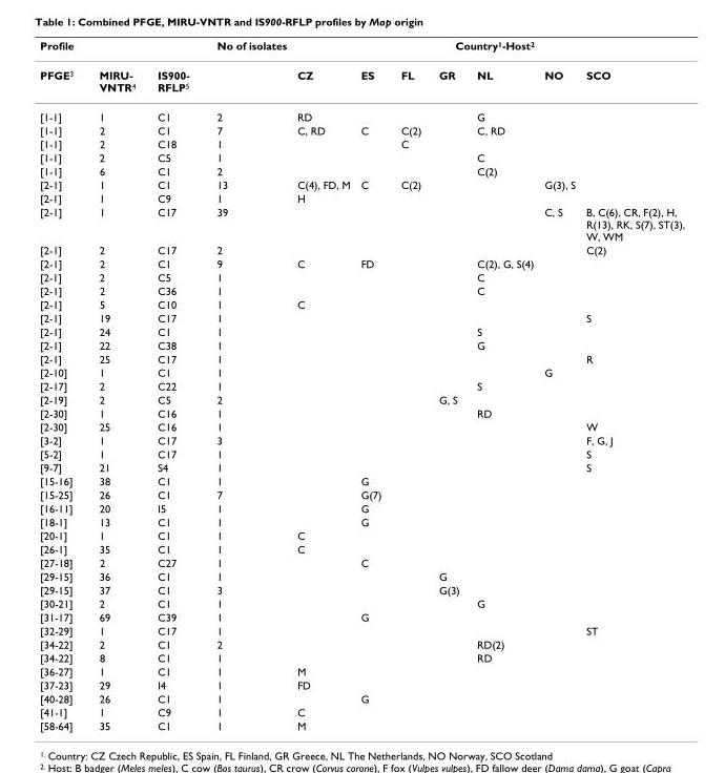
<table><thead><tr><td rowspan="2">Profile PFGE<sup>3</sup></td><td rowspan="2">MIRU- VNTR<sup>4</sup></td><td rowspan="2">IS900- RFLP<sup>5</sup></td><td rowspan="2">No of isolates</td><td colspan="7">Country<sup>1</sup>-Host<sup>2</sup></td></tr><tr><td>CZ</td><td>ES</td><td>FL</td><td>GR</td><td>NL</td><td>NO</td><td>SCO</td></tr></thead><tbody><tr><td>[1-1]</td><td>1</td><td>C1</td><td>2</td><td>RD</td><td></td><td></td><td></td><td>G</td><td></td><td></td></tr><tr><td>[1-1]</td><td>2</td><td>C1</td><td>7</td><td>C, RD</td><td>C</td><td>C(2)</td><td></td><td>C, RD</td><td></td><td></td></tr><tr><td>[1-1]</td><td>2</td><td>C18</td><td>1</td><td></td><td></td><td>C</td><td></td><td></td><td></td><td></td></tr><tr><td>[1-1]</td><td>2</td><td>C5</td><td>1</td><td></td><td></td><td></td><td></td><td>C</td><td></td><td></td></tr><tr><td>[1-1]</td><td>6</td><td>C1</td><td>2</td><td></td><td></td><td></td><td></td><td>C(2)</td><td></td><td></td></tr><tr><td>[2-1]</td><td>1</td><td>C1</td><td>13</td><td>C(4), FD, M</td><td>C</td><td>C(2)</td><td></td><td></td><td>G(3), S</td><td></td></tr><tr><td>[2-1]</td><td>1</td><td>C9</td><td>1</td><td>H</td><td></td><td></td><td></td><td></td><td></td><td></td></tr><tr><td>[2-1]</td><td>1</td><td>C17</td><td>39</td><td></td><td></td><td></td><td></td><td></td><td>C, S</td><td>B, C(6), CR, F(2), H, R(13), RK, S(7), ST(3), W, WM</td></tr><tr><td>[2-1]</td><td>2</td><td>C17</td><td>2</td><td></td><td></td><td></td><td></td><td></td><td></td><td>C(2)</td></tr><tr><td>[2-1]</td><td>2</td><td>C1</td><td>9</td><td>C</td><td>FD</td><td></td><td></td><td>C(2), G, S(4)</td><td></td><td></td></tr><tr><td>[2-1]</td><td>2</td><td>C5</td><td>1</td><td></td><td></td><td></td><td></td><td>C</td><td></td><td></td></tr><tr><td>[2-1]</td><td>2</td><td>C36</td><td>1</td><td></td><td></td><td></td><td></td><td>C</td><td></td><td></td></tr><tr><td>[2-1]</td><td>5</td><td>C10</td><td>1</td><td>C</td><td></td><td></td><td></td><td></td><td></td><td></td></tr><tr><td>[2-1]</td><td>19</td><td>C17</td><td>1</td><td></td><td></td><td></td><td></td><td></td><td></td><td>S</td></tr><tr><td>[2-1]</td><td>24</td><td>C1</td><td>1</td><td></td><td></td><td></td><td></td><td>S</td><td></td><td></td></tr><tr><td>[2-1]</td><td>22</td><td>C38</td><td>1</td><td></td><td></td><td></td><td></td><td>G</td><td></td><td></td></tr><tr><td>[2-1]</td><td>25</td><td>C17</td><td>1</td><td></td><td></td><td></td><td></td><td></td><td></td><td>R</td></tr><tr><td>[2-10]</td><td>1</td><td>C1</td><td>1</td><td></td><td></td><td></td><td></td><td></td><td>G</td><td></td></tr><tr><td>[2-17]</td><td>2</td><td>C22</td><td>1</td><td></td><td></td><td></td><td></td><td>S</td><td></td><td></td></tr><tr><td>[2-19]</td><td>2</td><td>C5</td><td>2</td><td></td><td></td><td></td><td>G, S</td><td></td><td></td><td></td></tr><tr><td>[2-30]</td><td>1</td><td>C16</td><td>1</td><td></td><td></td><td></td><td></td><td>RD</td><td></td><td></td></tr><tr><td>[2-30]</td><td>25</td><td>C16</td><td>1</td><td></td><td></td><td></td><td></td><td></td><td></td><td>W</td></tr><tr><td>[3-2]</td><td>1</td><td>C17</td><td>3</td><td></td><td></td><td></td><td></td><td></td><td></td><td>F, G, J</td></tr><tr><td>[5-2]</td><td>1</td><td>C17</td><td>1</td><td></td><td></td><td></td><td></td><td></td><td></td><td>S</td></tr><tr><td>[9-7]</td><td>21</td><td>S4</td><td>1</td><td></td><td></td><td></td><td></td><td></td><td></td><td>S</td></tr><tr><td>[15-16]</td><td>38</td><td>C1</td><td>1</td><td></td><td>G</td><td></td><td></td><td></td><td></td><td></td></tr><tr><td>[15-25]</td><td>26</td><td>C1</td><td>7</td><td></td><td>G(7)</td><td></td><td></td><td></td><td></td><td></td></tr><tr><td>[16-11]</td><td>20</td><td>I5</td><td>1</td><td></td><td>G</td><td></td><td></td><td></td><td></td><td></td></tr><tr><td>[18-1]</td><td>13</td><td>C1</td><td>1</td><td></td><td>G</td><td></td><td></td><td></td><td></td><td></td></tr><tr><td>[20-1]</td><td>1</td><td>C1</td><td>1</td><td>C</td><td></td><td></td><td></td><td></td><td></td><td></td></tr><tr><td>[26-1]</td><td>35</td><td>C1</td><td>1</td><td>C</td><td></td><td></td><td></td><td></td><td></td><td></td></tr><tr><td>[27-18]</td><td>2</td><td>C27</td><td>1</td><td></td><td>C</td><td></td><td></td><td></td><td></td><td></td></tr><tr><td>[29-15]</td><td>36</td><td>C1</td><td>1</td><td></td><td></td><td></td><td>G</td><td></td><td></td><td></td></tr><tr><td>[29-15]</td><td>37</td><td>C1</td><td>3</td><td></td><td></td><td></td><td>G(3)</td><td></td><td></td><td></td></tr><tr><td>[30-21]</td><td>2</td><td>C1</td><td>1</td><td></td><td></td><td></td><td></td><td>G</td><td></td><td></td></tr><tr><td>[31-17]</td><td>69</td><td>C39</td><td>1</td><td></td><td>G</td><td></td><td></td><td></td><td></td><td></td></tr><tr><td>[32-29]</td><td>1</td><td>C17</td><td>1</td><td></td><td></td><td></td><td></td><td></td><td></td><td>ST</td></tr><tr><td>[34-22]</td><td>2</td><td>C1</td><td>2</td><td></td><td></td><td></td><td></td><td>RD(2)</td><td></td><td></td></tr><tr><td>[34-22]</td><td>8</td><td>C1</td><td>1</td><td></td><td></td><td></td><td></td><td>RD</td><td></td><td></td></tr><tr><td>[36-27]</td><td>1</td><td>C1</td><td>1</td><td>M</td><td></td><td></td><td></td><td></td><td></td><td></td></tr><tr><td>[37-23]</td><td>29</td><td>I4</td><td>1</td><td>FD</td><td></td><td></td><td></td><td></td><td></td><td></td></tr><tr><td>[40-28]</td><td>26</td><td>C1</td><td>1</td><td></td><td>G</td><td></td><td></td><td></td><td></td><td></td></tr><tr><td>[41-1]</td><td>1</td><td>C9</td><td>1</td><td>C</td><td></td><td></td><td></td><td></td><td></td><td></td></tr><tr><td>[58-64]</td><td>35</td><td>C1</td><td>1</td><td>M</td><td></td><td></td><td></td><td></td><td></td><td></td></tr></tbody></table>